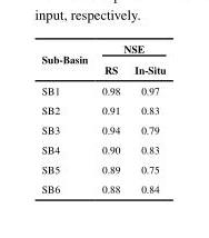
<table><thead><tr><td rowspan="2">Sub-Basin</td><td colspan="2">NSE</td></tr><tr><td>RS</td><td>In-Situ</td></tr></thead><tbody><tr><td>SB1</td><td>0.98</td><td>0.97</td></tr><tr><td>SB2</td><td>0.91</td><td>0.83</td></tr><tr><td>SB3</td><td>0.94</td><td>0.79</td></tr><tr><td>SB4</td><td>0.90</td><td>0.83</td></tr><tr><td>SB5</td><td>0.89</td><td>0.75</td></tr><tr><td>SB6</td><td>0.88</td><td>0.84</td></tr></tbody></table>